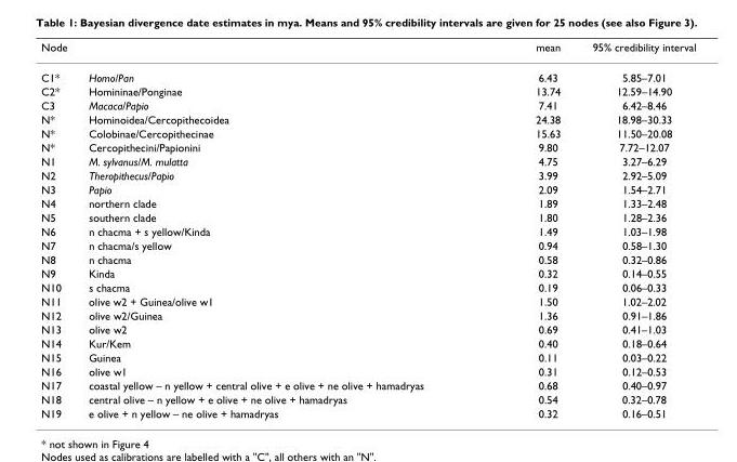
<table><thead><tr><td>Node</td><td></td><td>mean</td><td>95% credibility interval</td></tr></thead><tbody><tr><td>C1*</td><td>Homo/Pan</td><td>6.43</td><td>5.85–7.01</td></tr><tr><td>C2*</td><td>Homininae/Ponginae</td><td>13.74</td><td>12.59–14.90</td></tr><tr><td>C3</td><td>Macaca/Papio</td><td>7.41</td><td>6.42–8.46</td></tr><tr><td>N*</td><td>Hominoidea/Cercopithecoidea</td><td>24.38</td><td>18.98–30.33</td></tr><tr><td>N*</td><td>Colobinae/Cercopithecinae</td><td>15.63</td><td>11.50–20.08</td></tr><tr><td>N*</td><td>Cercopithecini/Papionini</td><td>9.80</td><td>7.72–12.07</td></tr><tr><td>N1</td><td>M. sylvanus/M. mulatta</td><td>4.75</td><td>3.27–6.29</td></tr><tr><td>N2</td><td>Theropithecus/Papio</td><td>3.99</td><td>2.92–5.09</td></tr><tr><td>N3</td><td>Papio</td><td>2.09</td><td>1.54–2.71</td></tr><tr><td>N4</td><td>northern clade</td><td>1.89</td><td>1.33–2.48</td></tr><tr><td>N5</td><td>southern clade</td><td>1.80</td><td>1.28–2.36</td></tr><tr><td>N6</td><td>n chacma + s yellow/Kinda</td><td>1.49</td><td>1.03–1.98</td></tr><tr><td>N7</td><td>n chacma/s yellow</td><td>0.94</td><td>0.58–1.30</td></tr><tr><td>N8</td><td>n chacma</td><td>0.58</td><td>0.32–0.86</td></tr><tr><td>N9</td><td>Kinda</td><td>0.32</td><td>0.14–0.55</td></tr><tr><td>N10</td><td>s chacma</td><td>0.19</td><td>0.06–0.33</td></tr><tr><td>N11</td><td>olive w2 + Guinea/olive w1</td><td>1.50</td><td>1.02–2.02</td></tr><tr><td>N12</td><td>olive w2/Guinea</td><td>1.36</td><td>0.91–1.86</td></tr><tr><td>N13</td><td>olive w2</td><td>0.69</td><td>0.41–1.03</td></tr><tr><td>N14</td><td>Kur/Kem</td><td>0.40</td><td>0.18–0.64</td></tr><tr><td>N15</td><td>Guinea</td><td>0.11</td><td>0.03–0.22</td></tr><tr><td>N16</td><td>olive w1</td><td>0.31</td><td>0.12–0.53</td></tr><tr><td>N17</td><td>coastal yellow – n yellow + central olive + e olive + ne olive + hamadryas</td><td>0.68</td><td>0.40–0.97</td></tr><tr><td>N18</td><td>central olive – n yellow + e olive + ne olive + hamadryas</td><td>0.54</td><td>0.32–0.78</td></tr><tr><td>N19</td><td>e olive + n yellow – ne olive + hamadryas</td><td>0.32</td><td>0.16–0.51</td></tr></tbody></table>